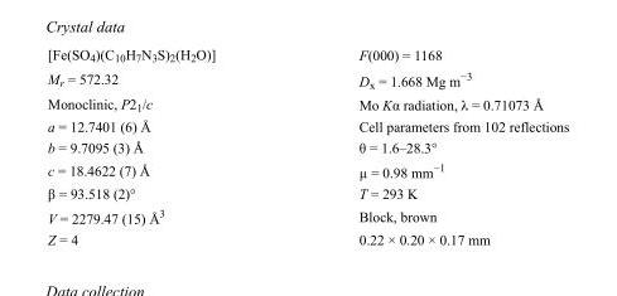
<table><tbody><tr><td>[Fe(SO<sub>4</sub>)(C<sub>10</sub>H<sub>7</sub>N<sub>3</sub>S)<sub>2</sub>(H<sub>2</sub>O)]</td><td>F(000) = 1168</td></tr><tr><td>M<sub>r</sub> = 572.32</td><td>D<sub>x</sub> = 1.668 Mg m<sup>−3</sup></td></tr><tr><td>Monoclinic, P2<sub>1</sub>/c</td><td>Mo Kα radiation, λ = 0.71073 Å</td></tr><tr><td>a = 12.7401 (6) Å</td><td>Cell parameters from 102 reflections</td></tr><tr><td>b = 9.7095 (3) Å</td><td>θ = 1.6–28.3°</td></tr><tr><td>c = 18.4622 (7) Å</td><td>µ = 0.98 mm<sup>−1</sup></td></tr><tr><td>β = 93.518 (2)°</td><td>T = 293 K</td></tr><tr><td>V = 2279.47 (15) Å<sup>3</sup></td><td>Block, brown</td></tr><tr><td>Z = 4</td><td>0.22 × 0.20 × 0.17 mm</td></tr></tbody></table>